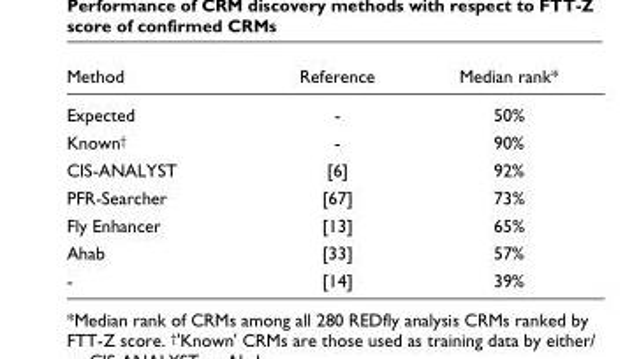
<table><thead><tr><td>Method</td><td>Reference</td><td>Median rank*</td></tr></thead><tbody><tr><td>Expected</td><td>-</td><td>50%</td></tr><tr><td>Known<sup>†</sup></td><td>-</td><td>90%</td></tr><tr><td>CIS-ANALYST</td><td>[6]</td><td>92%</td></tr><tr><td>PFR-Searcher</td><td>[67]</td><td>73%</td></tr><tr><td>Fly Enhancer</td><td>[13]</td><td>65%</td></tr><tr><td>Ahab</td><td>[33]</td><td>57%</td></tr><tr><td>-</td><td>[14]</td><td>39%</td></tr></tbody></table>